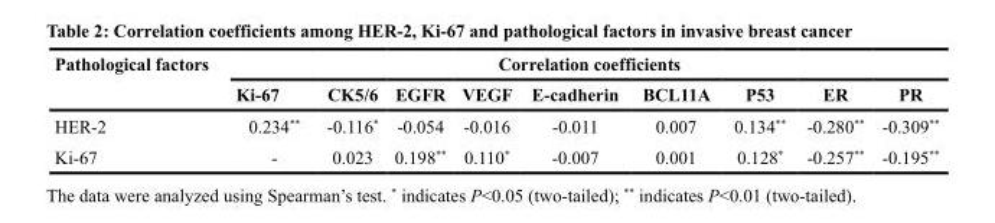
<table><thead><tr><td rowspan="2">Pathological factors</td><td colspan="9">Correlation coefficients</td></tr><tr><td>Ki-67</td><td>CK5/6</td><td>EGFR</td><td>VEGF</td><td>E-cadherin</td><td>BCL11A</td><td>P53</td><td>ER</td><td>PR</td></tr></thead><tbody><tr><td>HER-2</td><td>0.234**</td><td>-0.116*</td><td>-0.054</td><td>-0.016</td><td>-0.011</td><td>0.007</td><td>0.134**</td><td>-0.280**</td><td>-0.309**</td></tr><tr><td>Ki-67</td><td>-</td><td>0.023</td><td>0.198**</td><td>0.110*</td><td>-0.007</td><td>0.001</td><td>0.128*</td><td>-0.257**</td><td>-0.195**</td></tr></tbody></table>